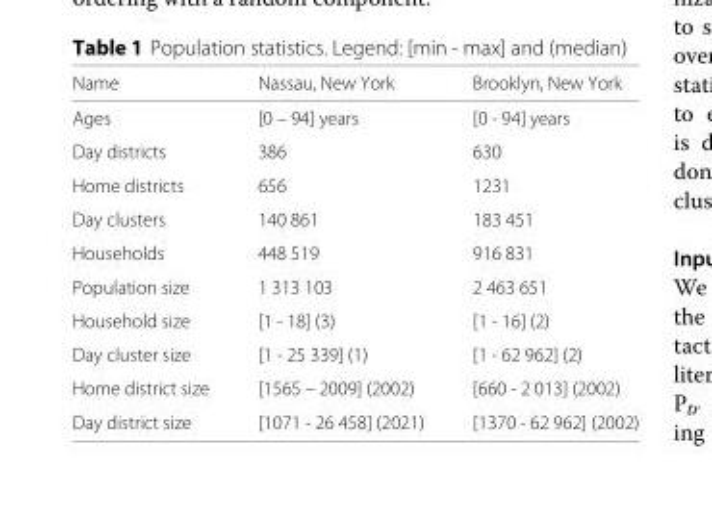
<table><thead><tr><td>Name</td><td>Nassau, New York</td><td>Brooklyn, New York</td></tr></thead><tbody><tr><td>Ages</td><td>[0 – 94] years</td><td>[0 - 94] years</td></tr><tr><td>Day districts</td><td>386</td><td>630</td></tr><tr><td>Home districts</td><td>656</td><td>1231</td></tr><tr><td>Day clusters</td><td>140 861</td><td>183 451</td></tr><tr><td>Households</td><td>448 519</td><td>916 831</td></tr><tr><td>Population size</td><td>1 313 103</td><td>2 463 651</td></tr><tr><td>Household size</td><td>[1 - 18] (3)</td><td>[1 - 16] (2)</td></tr><tr><td>Day cluster size</td><td>[1 - 25 339] (1)</td><td>[1 - 62 962] (2)</td></tr><tr><td>Home district size</td><td>[1565 – 2009] (2002)</td><td>[660 - 2 013] (2002)</td></tr><tr><td>Day district size</td><td>[1071 - 26 458] (2021)</td><td>[1370 - 62 962] (2002)</td></tr></tbody></table>